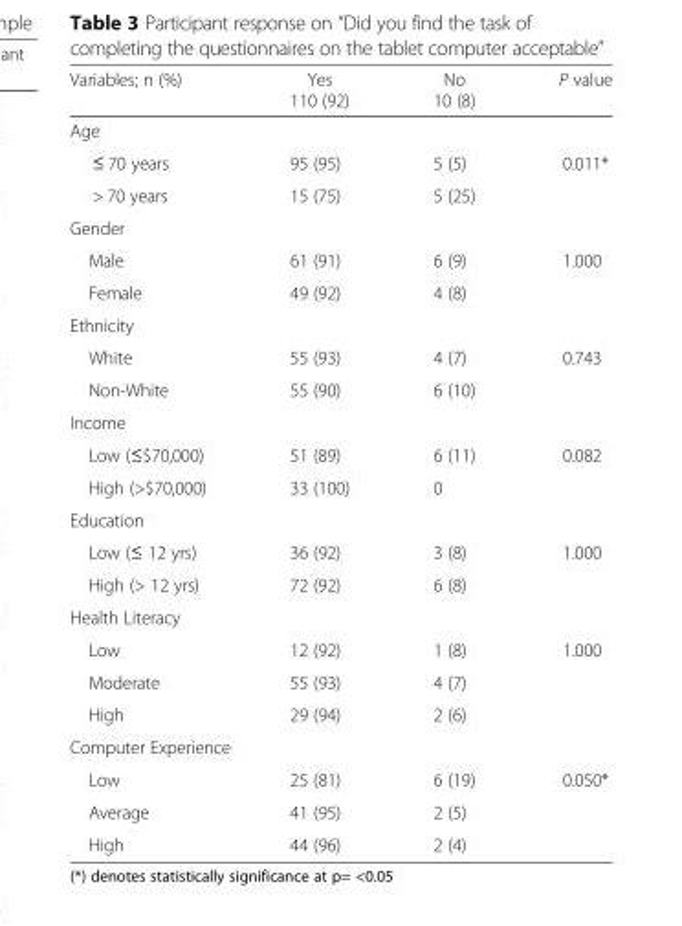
<table><thead><tr><td>Variables; n (%)</td><td>Yes 110 (92)</td><td>No 10 (8)</td><td>P value</td></tr></thead><tbody><tr><td colspan="4">Age</td></tr><tr><td>≤ 70 years</td><td>95 (95)</td><td>5 (5)</td><td rowspan="2">0.011*</td></tr><tr><td>&gt; 70 years</td><td>15 (75)</td><td>5 (25)</td></tr><tr><td colspan="4">Gender</td></tr><tr><td>Male</td><td>61 (91)</td><td>6 (9)</td><td rowspan="2">1.000</td></tr><tr><td>Female</td><td>49 (92)</td><td>4 (8)</td></tr><tr><td colspan="4">Ethnicity</td></tr><tr><td>White</td><td>55 (93)</td><td>4 (7)</td><td rowspan="2">0.743</td></tr><tr><td>Non-White</td><td>55 (90)</td><td>6 (10)</td></tr><tr><td colspan="4">Income</td></tr><tr><td>Low (≤$70,000)</td><td>51 (89)</td><td>6 (11)</td><td rowspan="2">0.082</td></tr><tr><td>High (&gt;$70,000)</td><td>33 (100)</td><td>0</td></tr><tr><td colspan="4">Education</td></tr><tr><td>Low (≤ 12 yrs)</td><td>36 (92)</td><td>3 (8)</td><td rowspan="2">1.000</td></tr><tr><td>High (&gt; 12 yrs)</td><td>72 (92)</td><td>6 (8)</td></tr><tr><td colspan="4">Health Literacy</td></tr><tr><td>Low</td><td>12 (92)</td><td>1 (8)</td><td rowspan="3">1.000</td></tr><tr><td>Moderate</td><td>55 (93)</td><td>4 (7)</td></tr><tr><td>High</td><td>29 (94)</td><td>2 (6)</td></tr><tr><td colspan="4">Computer Experience</td></tr><tr><td>Low</td><td>25 (81)</td><td>6 (19)</td><td rowspan="3">0.050*</td></tr><tr><td>Average</td><td>41 (95)</td><td>2 (5)</td></tr><tr><td>High</td><td>44 (96)</td><td>2 (4)</td></tr></tbody></table>